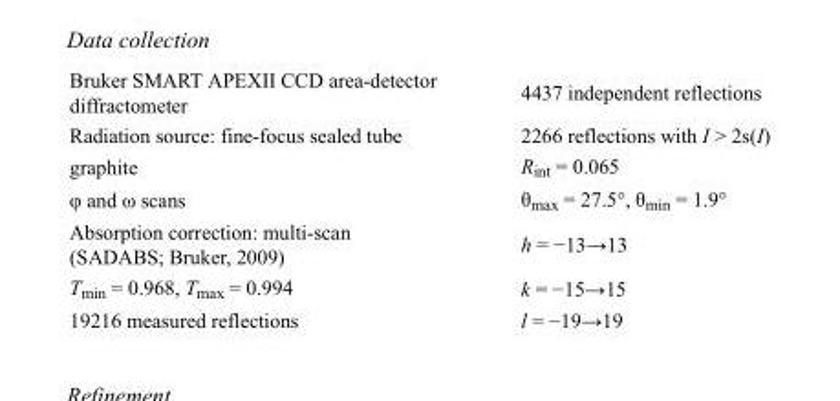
<table><tbody><tr><td>Bruker SMART APEXII CCD area-detector diffractometer</td><td>4437 independent reflections</td></tr><tr><td>Radiation source: fine-focus sealed tube</td><td>2266 reflections with I &gt; 2s(I)</td></tr><tr><td>graphite</td><td>R<sub>int</sub> = 0.065</td></tr><tr><td>φ and ω scans</td><td>θ<sub>max</sub> = 27.5°, θ<sub>min</sub> = 1.9°</td></tr><tr><td>Absorption correction: multi-scan (SADABS; Bruker, 2009)</td><td>h = −13→13</td></tr><tr><td>T<sub>min</sub> = 0.968, T<sub>max</sub> = 0.994</td><td>k = −15→15</td></tr><tr><td>19216 measured reflections</td><td>l = −19→19</td></tr></tbody></table>